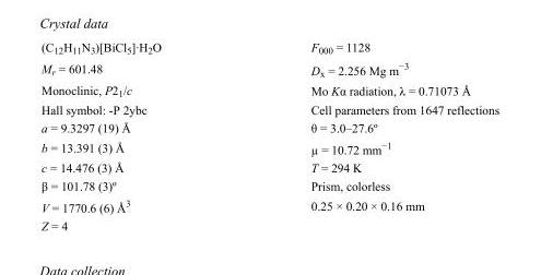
<table><tbody><tr><td>(C<sub>12</sub>H<sub>11</sub>N<sub>3</sub>)[BiCl<sub>5</sub>]·H<sub>2</sub>O</td><td>F000 = 1128</td></tr><tr><td>M<sub>r</sub> = 601.48</td><td>D<sub>x</sub> = 2.256 Mg m<sup>−3</sup></td></tr><tr><td>Monoclinic, P2<sub>1</sub>/c</td><td>Mo Kα radiation, λ = 0.71073 Å</td></tr><tr><td>Hall symbol: -P 2ybc</td><td>Cell parameters from 1647 reflections</td></tr><tr><td>a = 9.3297 (19) Å</td><td>θ = 3.0–27.6º</td></tr><tr><td>b = 13.391 (3) Å</td><td>µ = 10.72 mm<sup>−1</sup></td></tr><tr><td>c = 14.476 (3) Å</td><td>T = 294 K</td></tr><tr><td>β = 101.78 (3)º</td><td>Prism, colorless</td></tr><tr><td>V = 1770.6 (6) Å<sup>3</sup></td><td>0.25 × 0.20 × 0.16 mm</td></tr><tr><td>Z = 4</td><td></td></tr></tbody></table>